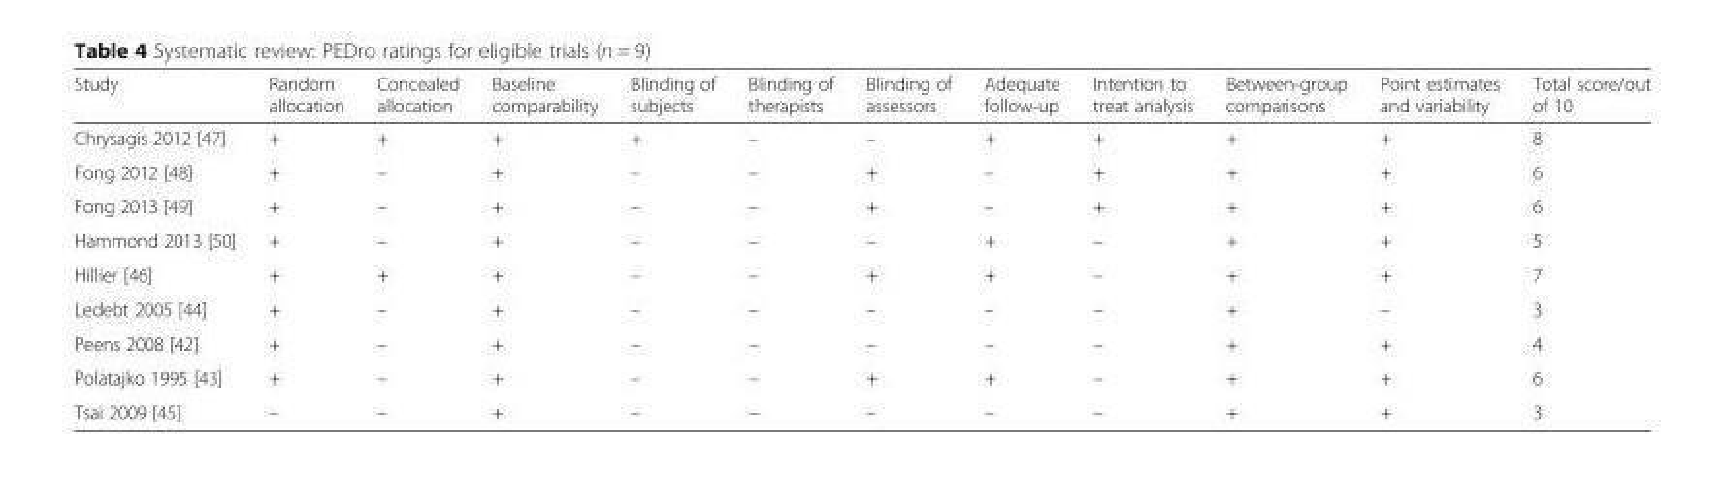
<table><thead><tr><td>Study</td><td>Random allocation</td><td>Concealed allocation</td><td>Baseline comparability</td><td>Blinding of subjects</td><td>Blinding of therapists</td><td>Blinding of assessors</td><td>Adequate follow-up</td><td>Intention to treat analysis</td><td>Between-group comparisons</td><td>Point estimates and variability</td><td>Total score/out of 10</td></tr></thead><tbody><tr><td>Chrysagis 2012 [47]</td><td>+</td><td>+</td><td>+</td><td>+</td><td>–</td><td>–</td><td>+</td><td>+</td><td>+</td><td>+</td><td>8</td></tr><tr><td>Fong 2012 [48]</td><td>+</td><td>–</td><td>+</td><td>–</td><td>–</td><td>+</td><td>–</td><td>+</td><td>+</td><td>+</td><td>6</td></tr><tr><td>Fong 2013 [49]</td><td>+</td><td>–</td><td>+</td><td>–</td><td>–</td><td>+</td><td>–</td><td>+</td><td>+</td><td>+</td><td>6</td></tr><tr><td>Hammond 2013 [50]</td><td>+</td><td>–</td><td>+</td><td>–</td><td>–</td><td>–</td><td>+</td><td>–</td><td>+</td><td>+</td><td>5</td></tr><tr><td>Hillier [46]</td><td>+</td><td>+</td><td>+</td><td>–</td><td>–</td><td>+</td><td>+</td><td>–</td><td>+</td><td>+</td><td>7</td></tr><tr><td>Ledebt 2005 [44]</td><td>+</td><td>–</td><td>+</td><td>–</td><td>–</td><td>–</td><td>–</td><td>–</td><td>+</td><td>–</td><td>3</td></tr><tr><td>Peens 2008 [42]</td><td>+</td><td>–</td><td>+</td><td>–</td><td>–</td><td>–</td><td>–</td><td>–</td><td>+</td><td>+</td><td>4</td></tr><tr><td>Polatajko 1995 [43]</td><td>+</td><td>–</td><td>+</td><td>–</td><td>–</td><td>+</td><td>+</td><td>–</td><td>+</td><td>+</td><td>6</td></tr><tr><td>Tsai 2009 [45]</td><td>–</td><td>–</td><td>+</td><td>–</td><td>–</td><td>–</td><td>–</td><td>–</td><td>+</td><td>+</td><td>3</td></tr></tbody></table>